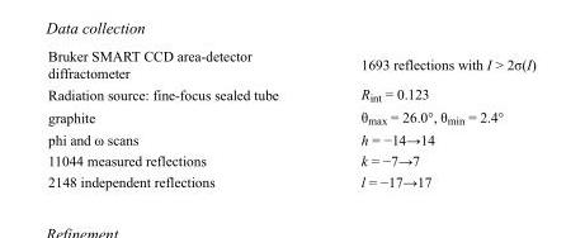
<table><tbody><tr><td>Bruker SMART CCD area-detector diffractometer</td><td>1693 reflections with I &gt; 2σ(I)</td></tr><tr><td>Radiation source: fine-focus sealed tube</td><td>R<sub>int</sub> = 0.123</td></tr><tr><td>graphite</td><td>θ<sub>max</sub> = 26.0°, θ<sub>min</sub> = 2.4°</td></tr><tr><td>phi and ω scans</td><td>h = −14→14</td></tr><tr><td>11044 measured reflections</td><td>k = −7→7</td></tr><tr><td>2148 independent reflections</td><td>l = −17→17</td></tr></tbody></table>